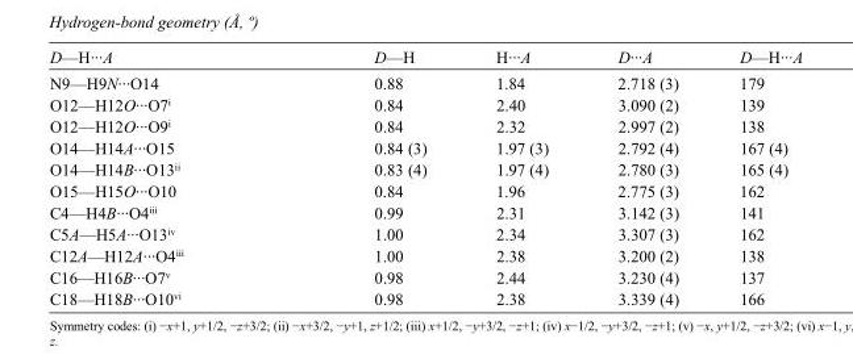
<table><tbody><tr><td>D—H···A</td><td>D—H</td><td>H···A</td><td>D···A</td><td>D—H···A</td></tr><tr><td>N9—H9N···O14</td><td>0.88</td><td>1.84</td><td>2.718 (3)</td><td>179</td></tr><tr><td>O12—H12O···O7<sup>i</sup></td><td>0.84</td><td>2.40</td><td>3.090 (2)</td><td>139</td></tr><tr><td>O12—H12O···O9<sup>i</sup></td><td>0.84</td><td>2.32</td><td>2.997 (2)</td><td>138</td></tr><tr><td>O14—H14A···O15</td><td>0.84 (3)</td><td>1.97 (3)</td><td>2.792 (4)</td><td>167 (4)</td></tr><tr><td>O14—H14B···O13<sup>ii</sup></td><td>0.83 (4)</td><td>1.97 (4)</td><td>2.780 (3)</td><td>165 (4)</td></tr><tr><td>O15—H15O···O10</td><td>0.84</td><td>1.96</td><td>2.775 (3)</td><td>162</td></tr><tr><td>C4—H4B···O4<sup>iii</sup></td><td>0.99</td><td>2.31</td><td>3.142 (3)</td><td>141</td></tr><tr><td>C5A—H5A···O13<sup>iv</sup></td><td>1.00</td><td>2.34</td><td>3.307 (3)</td><td>162</td></tr><tr><td>C12A—H12A···O4<sup>iii</sup></td><td>1.00</td><td>2.38</td><td>3.200 (2)</td><td>138</td></tr><tr><td>C16—H16B···O7<sup>v</sup></td><td>0.98</td><td>2.44</td><td>3.230 (4)</td><td>137</td></tr><tr><td>C18—H18B···O10<sup>vi</sup></td><td>0.98</td><td>2.38</td><td>3.339 (4)</td><td>166</td></tr></tbody></table>